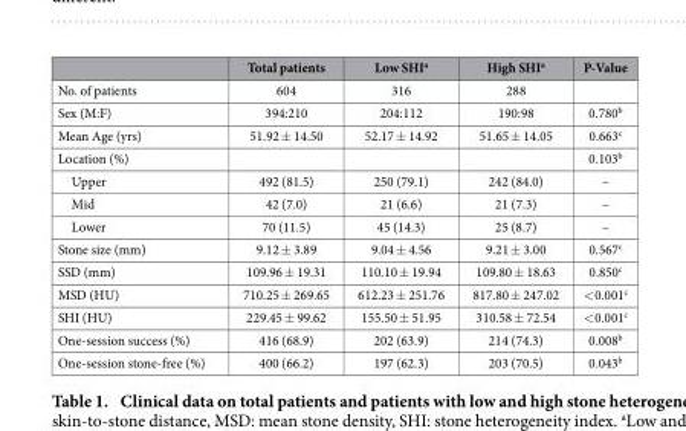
<table><thead><tr><td></td><td>Total patients</td><td>Low SHI<sup>a</sup></td><td>High SHI<sup>a</sup></td><td>P-Value</td></tr></thead><tbody><tr><td>No. of patients</td><td>604</td><td>316</td><td>288</td><td></td></tr><tr><td>Sex (M:F)</td><td>394:210</td><td>204:112</td><td>190:98</td><td>0.780<sup>b</sup></td></tr><tr><td>Mean Age (yrs)</td><td>51.92 ± 14.50</td><td>52.17 ± 14.92</td><td>51.65 ± 14.05</td><td>0.663<sup>c</sup></td></tr><tr><td>Location (%)</td><td></td><td></td><td></td><td>0.103<sup>b</sup></td></tr><tr><td>Upper</td><td>492 (81.5)</td><td>250 (79.1)</td><td>242 (84.0)</td><td>–</td></tr><tr><td>Mid</td><td>42 (7.0)</td><td>21 (6.6)</td><td>21 (7.3)</td><td>–</td></tr><tr><td>Lower</td><td>70 (11.5)</td><td>45 (14.3)</td><td>25 (8.7)</td><td>–</td></tr><tr><td>Stone size (mm)</td><td>9.12 ± 3.89</td><td>9.04 ± 4.56</td><td>9.21 ± 3.00</td><td>0.567<sup>c</sup></td></tr><tr><td>SSD (mm)</td><td>109.96 ± 19.31</td><td>110.10 ± 19.94</td><td>109.80 ± 18.63</td><td>0.850<sup>c</sup></td></tr><tr><td>MSD (HU)</td><td>710.25 ± 269.65</td><td>612.23 ± 251.76</td><td>817.80 ± 247.02</td><td>&lt; 0.001<sup>c</sup></td></tr><tr><td>SHI (HU)</td><td>229.45 ± 99.62</td><td>155.50 ± 51.95</td><td>310.58 ± 72.54</td><td>&lt; 0.001<sup>c</sup></td></tr><tr><td>One-session success (%)</td><td>416 (68.9)</td><td>202 (63.9)</td><td>214 (74.3)</td><td>0.008<sup>b</sup></td></tr><tr><td>One-session stone-free (%)</td><td>400 (66.2)</td><td>197 (62.3)</td><td>203 (70.5)</td><td>0.043<sup>b</sup></td></tr></tbody></table>